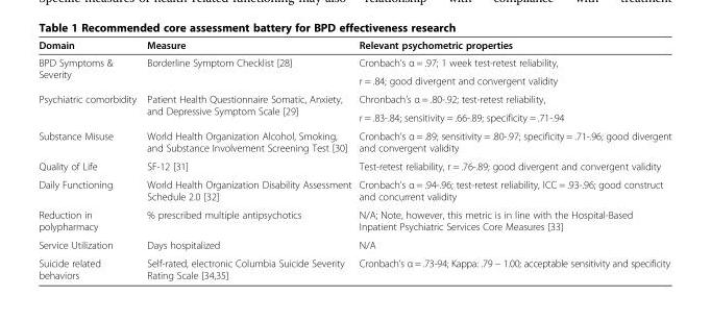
<table><thead><tr><td>Domain</td><td>Measure</td><td>Relevant psychometric properties</td></tr></thead><tbody><tr><td rowspan="2">BPD Symptoms &amp; Severity</td><td rowspan="2">Borderline Symptom Checklist [28]</td><td>Cronbach’s α = .97; 1 week test-retest reliability,</td></tr><tr><td>r = .84; good divergent and convergent validity</td></tr><tr><td rowspan="2">Psychiatric comorbidity</td><td rowspan="2">Patient Health Questionnaire Somatic, Anxiety, and Depressive Symptom Scale [29]</td><td>Chronbach’s α = .80-.92; test-retest reliability,</td></tr><tr><td>r = .83-.84; sensitivity = .66-.89; specificity = .71-.94</td></tr><tr><td>Substance Misuse</td><td>World Health Organization Alcohol, Smoking, and Substance Involvement Screening Test [30]</td><td>Cronbach’s α = .89; sensitivity = .80-.97; specificity = .71-.96; good divergent and convergent validity</td></tr><tr><td>Quality of Life</td><td>SF-12 [31]</td><td>Test-retest reliability, r = .76-.89; good divergent and convergent validity</td></tr><tr><td>Daily Functioning</td><td>World Health Organization Disability Assessment Schedule 2.0 [32]</td><td>Cronbach’s α = .94-.96; test-retest reliability, ICC = .93-.96; good construct and concurrent validity</td></tr><tr><td>Reduction in polypharmacy</td><td>% prescribed multiple antipsychotics</td><td>N/A; Note, however, this metric is in line with the Hospital-Based Inpatient Psychiatric Services Core Measures [33]</td></tr><tr><td>Service Utilization</td><td>Days hospitalized</td><td>N/A</td></tr><tr><td>Suicide related behaviors</td><td>Self-rated, electronic Columbia Suicide Severity Rating Scale [34,35]</td><td>Cronbach’s α = .73-94; Kappa: .79 – 1.00; acceptable sensitivity and specificity</td></tr></tbody></table>